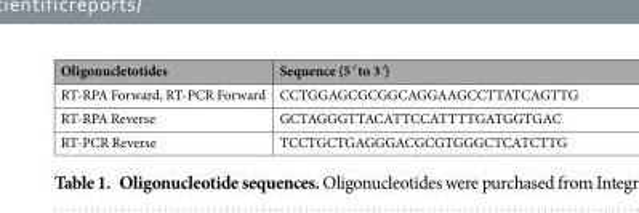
<table><thead><tr><td>Oligonucletotides</td><td>Sequence (5′ to 3′)</td></tr></thead><tbody><tr><td>RT-RPA Forward, RT-PCR Forward</td><td>CCTGGAGCGCGGCAGGAAGCCTTATCAGTTG</td></tr><tr><td>RT-RPA Reverse</td><td>GCTAGGGTTACATTCCATTTTGATGGTGAC</td></tr><tr><td>RT-PCR Reverse</td><td>TCCTGCTGAGGGACGCGTGGGCTCATCTTG</td></tr></tbody></table>